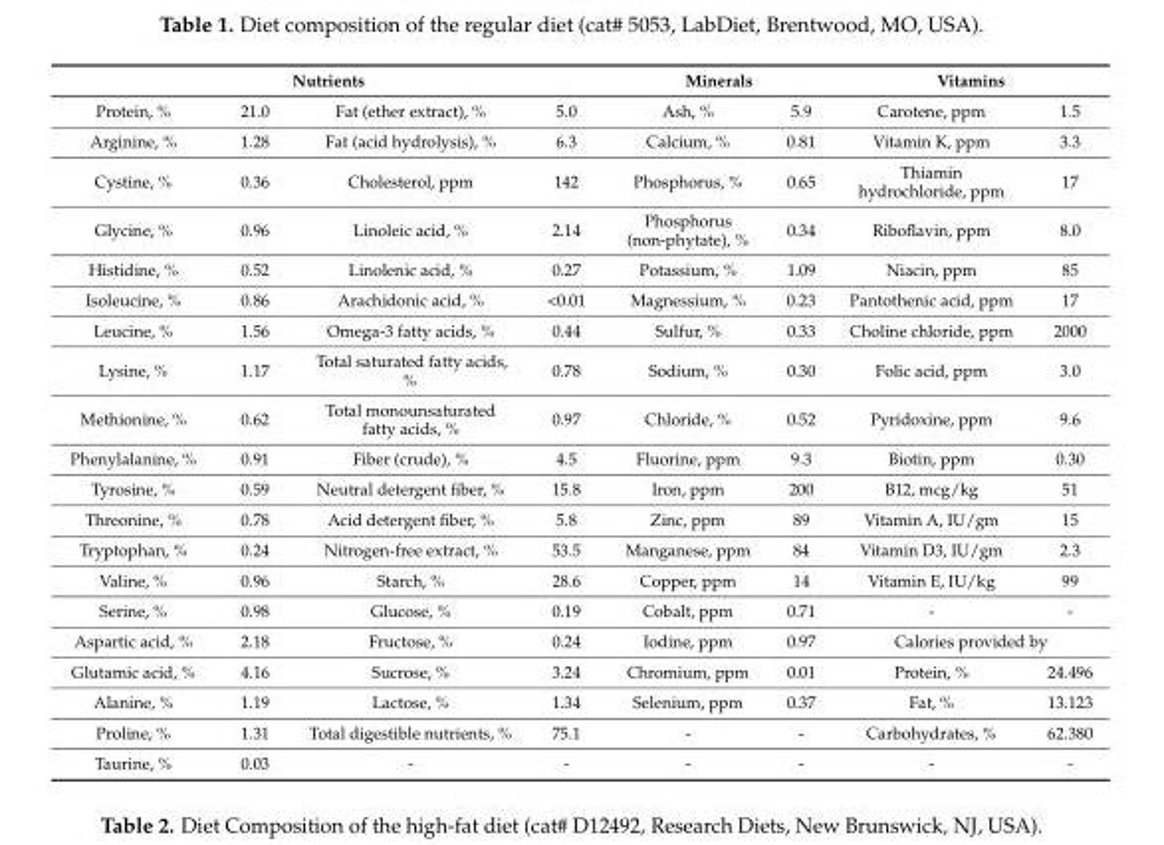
<table><thead><tr><td colspan="4">Nutrients</td><td colspan="2">Minerals</td><td colspan="2">Vitamins</td></tr><tr><td>Protein, %</td><td>21.0</td><td>Fat (ether extract), %</td><td>5.0</td><td>Ash, %</td><td>5.9</td><td>Carotene, ppm</td><td>1.5</td></tr></thead><tbody><tr><td>Arginine, %</td><td>1.28</td><td>Fat (acid hydrolysis), %</td><td>6.3</td><td>Calcium, %</td><td>0.81</td><td>Vitamin K, ppm</td><td>3.3</td></tr><tr><td>Cystine, %</td><td>0.36</td><td>Cholesterol, ppm</td><td>142</td><td>Phosphorus, %</td><td>0.65</td><td>Thiamin hydrochloride, ppm</td><td>17</td></tr><tr><td>Glycine, %</td><td>0.96</td><td>Linoleic acid, %</td><td>2.14</td><td>Phosphorus (non-phytate), %</td><td>0.34</td><td>Riboflavin, ppm</td><td>8.0</td></tr><tr><td>Histidine, %</td><td>0.52</td><td>Linolenic acid, %</td><td>0.27</td><td>Potassium, %</td><td>1.09</td><td>Niacin, ppm</td><td>85</td></tr><tr><td>Isoleucine, %</td><td>0.86</td><td>Arachidonic acid, %</td><td>&lt;0.01</td><td>Magnessium, %</td><td>0.23</td><td>Pantothenic acid, ppm</td><td>17</td></tr><tr><td>Leucine, %</td><td>1.56</td><td>Omega-3 fatty acids, %</td><td>0.44</td><td>Sulfur, %</td><td>0.33</td><td>Choline chloride, ppm</td><td>2000</td></tr><tr><td>Lysine, %</td><td>1.17</td><td>Total saturated fatty acids, %</td><td>0.78</td><td>Sodium, %</td><td>0.30</td><td>Folic acid, ppm</td><td>3.0</td></tr><tr><td>Methionine, %</td><td>0.62</td><td>Total monounsaturated fatty acids, %</td><td>0.97</td><td>Chloride, %</td><td>0.52</td><td>Pyridoxine, ppm</td><td>9.6</td></tr><tr><td>Phenylalanine, %</td><td>0.91</td><td>Fiber (crude), %</td><td>4.5</td><td>Fluorine, ppm</td><td>9.3</td><td>Biotin, ppm</td><td>0.30</td></tr><tr><td>Tyrosine, %</td><td>0.59</td><td>Neutral detergent fiber, %</td><td>15.8</td><td>Iron, ppm</td><td>200</td><td>B12, mcg/kg</td><td>51</td></tr><tr><td>Threonine, %</td><td>0.78</td><td>Acid detergent fiber, %</td><td>5.8</td><td>Zinc, ppm</td><td>89</td><td>Vitamin A, IU/gm</td><td>15</td></tr><tr><td>Tryptophan, %</td><td>0.24</td><td>Nitrogen-free extract, %</td><td>53.5</td><td>Manganese, ppm</td><td>84</td><td>Vitamin D3, IU/gm</td><td>2.3</td></tr><tr><td>Valine, %</td><td>0.96</td><td>Starch, %</td><td>28.6</td><td>Copper, ppm</td><td>14</td><td>Vitamin E, IU/kg</td><td>99</td></tr><tr><td>Serine, %</td><td>0.98</td><td>Glucose, %</td><td>0.19</td><td>Cobalt, ppm</td><td>0.71</td><td>-</td><td>-</td></tr><tr><td>Aspartic acid, %</td><td>2.18</td><td>Fructose, %</td><td>0.24</td><td>Iodine, ppm</td><td>0.97</td><td colspan="2">Calories provided by</td></tr><tr><td>Glutamic acid, %</td><td>4.16</td><td>Sucrose, %</td><td>3.24</td><td>Chromium, ppm</td><td>0.01</td><td>Protein, %</td><td>24.496</td></tr><tr><td>Alanine, %</td><td>1.19</td><td>Lactose, %</td><td>1.34</td><td>Selenium, ppm</td><td>0.37</td><td>Fat, %</td><td>13.123</td></tr><tr><td>Proline, %</td><td>1.31</td><td>Total digestible nutrients, %</td><td>75.1</td><td>-</td><td>-</td><td>Carbohydrates, %</td><td>62.380</td></tr><tr><td>Taurine, %</td><td>0.03</td><td>-</td><td>-</td><td>-</td><td>-</td><td>-</td><td>-</td></tr></tbody></table>